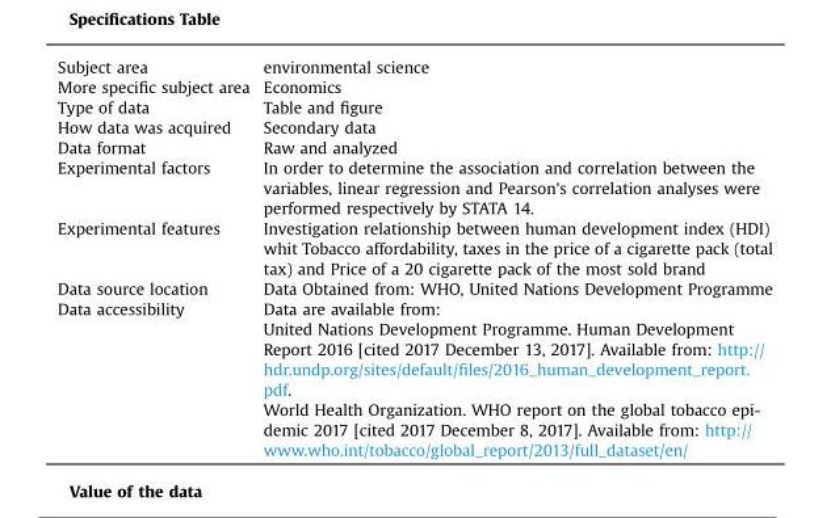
<table><tbody><tr><td>Subject area</td><td>environmental science</td></tr><tr><td>More specific subject area</td><td>Economics</td></tr><tr><td>Type of data</td><td>Table and figure</td></tr><tr><td>How data was acquired</td><td>Secondary data</td></tr><tr><td>Data format</td><td>Raw and analyzed</td></tr><tr><td>Experimental factors</td><td>In order to determine the association and correlation between the variables, linear regression and Pearson&#x27;s correlation analyses were performed respectively by STATA 14.</td></tr><tr><td>Experimental features</td><td>Investigation relationship between human development index (HDI) whit Tobacco affordability, taxes in the price of a cigarette pack (total tax) and Price of a 20 cigarette pack of the most sold brand</td></tr><tr><td>Data source location</td><td>Data Obtained from: WHO, United Nations Development Programme</td></tr><tr><td rowspan="3">Data accessibility</td><td>Data are available from:</td></tr><tr><td>United Nations Development Programme. Human Development Report 2016 [cited 2017 December 13, 2017]. Available from: http:// hdr.undp.org/sites/default/files/2016_human_development_report. pdf.</td></tr><tr><td>World Health Organization. WHO report on the global tobacco epi- demic 2017 [cited 2017 December 8, 2017]. Available from: http:// www.who.int/tobacco/global_report/2013/full_dataset/en/</td></tr></tbody></table>